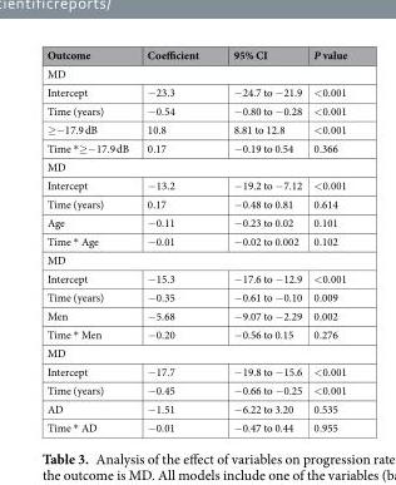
<table><thead><tr><td>Outcome</td><td>Coefficient</td><td>95% CI</td><td>P value</td></tr></thead><tbody><tr><td colspan="4">MD</td></tr><tr><td>Intercept</td><td>−23.3</td><td>−24.7 to −21.9</td><td>&lt;0.001</td></tr><tr><td>Time (years)</td><td>−0.54</td><td>−0.80 to −0.28</td><td>&lt;0.001</td></tr><tr><td>≥−17.9 dB</td><td>10.8</td><td>8.81 to 12.8</td><td>&lt;0.001</td></tr><tr><td>Time *≥−17.9 dB</td><td>0.17</td><td>−0.19 to 0.54</td><td>0.366</td></tr><tr><td colspan="4">MD</td></tr><tr><td>Intercept</td><td>−13.2</td><td>−19.2 to −7.12</td><td>&lt;0.001</td></tr><tr><td>Time (years)</td><td>0.17</td><td>−0.48 to 0.81</td><td>0.614</td></tr><tr><td>Age</td><td>−0.11</td><td>−0.23 to 0.02</td><td>0.101</td></tr><tr><td>Time * Age</td><td>−0.01</td><td>−0.02 to 0.002</td><td>0.102</td></tr><tr><td colspan="4">MD</td></tr><tr><td>Intercept</td><td>−15.3</td><td>−17.6 to −12.9</td><td>&lt;0.001</td></tr><tr><td>Time (years)</td><td>−0.35</td><td>−0.61 to −0.10</td><td>0.009</td></tr><tr><td>Men</td><td>−5.68</td><td>−9.07 to −2.29</td><td>0.002</td></tr><tr><td>Time * Men</td><td>−0.20</td><td>−0.56 to 0.15</td><td>0.276</td></tr><tr><td colspan="4">MD</td></tr><tr><td>Intercept</td><td>−17.7</td><td>−19.8 to −15.6</td><td>&lt;0.001</td></tr><tr><td>Time (years)</td><td>−0.45</td><td>−0.66 to −0.25</td><td>&lt;0.001</td></tr><tr><td>AD</td><td>−1.51</td><td>−6.22 to 3.20</td><td>0.535</td></tr><tr><td>Time * AD</td><td>−0.01</td><td>−0.47 to 0.44</td><td>0.955</td></tr></tbody></table>